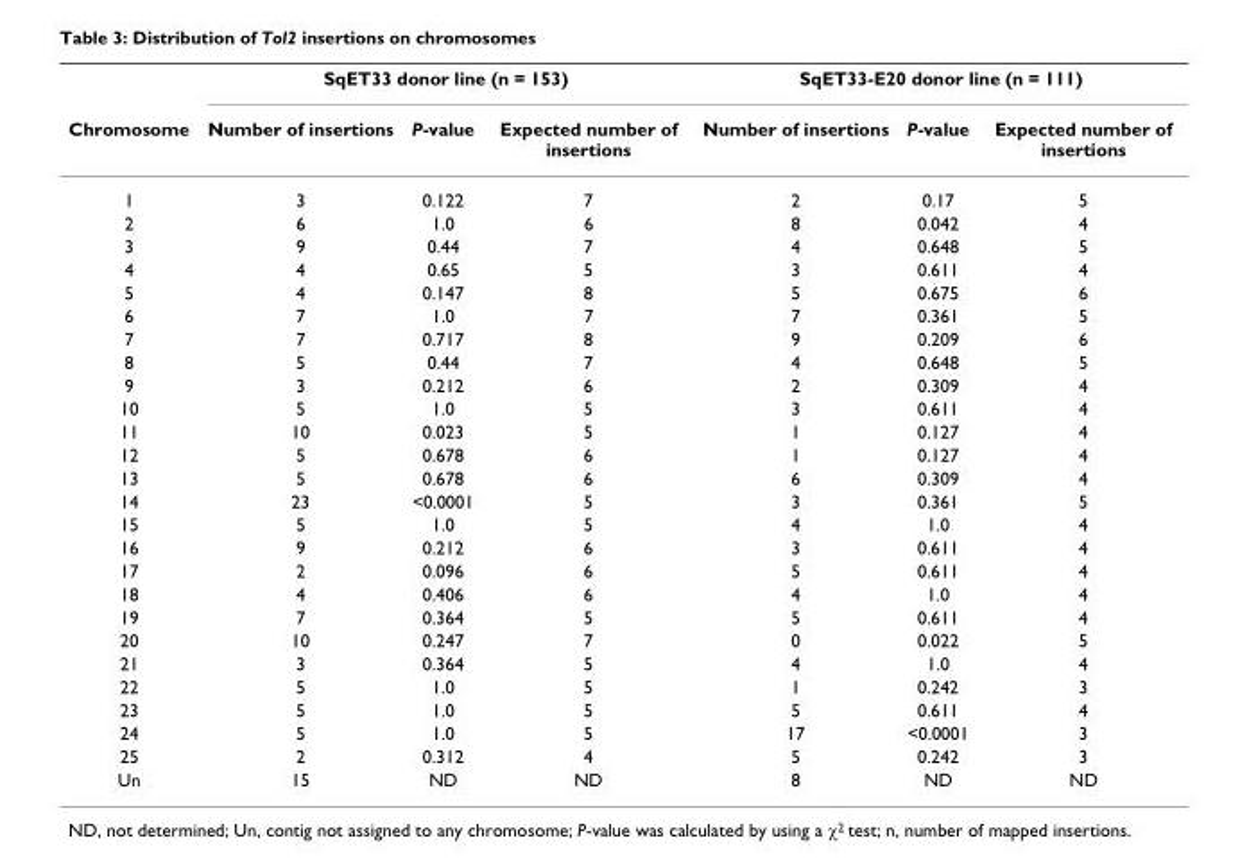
<table><thead><tr><td rowspan="2">Chromosome</td><td colspan="3">SqET33 donor line (n = 153)</td><td colspan="3">SqET33-E20 donor line (n = 111)</td></tr><tr><td>Number of insertions</td><td>P-value</td><td>Expected number of insertions</td><td>Number of insertions</td><td>P-value</td><td>Expected number of insertions</td></tr></thead><tbody><tr><td>1</td><td>3</td><td>0.122</td><td>7</td><td>2</td><td>0.17</td><td>5</td></tr><tr><td>2</td><td>6</td><td>1.0</td><td>6</td><td>8</td><td>0.042</td><td>4</td></tr><tr><td>3</td><td>9</td><td>0.44</td><td>7</td><td>4</td><td>0.648</td><td>5</td></tr><tr><td>4</td><td>4</td><td>0.65</td><td>5</td><td>3</td><td>0.611</td><td>4</td></tr><tr><td>5</td><td>4</td><td>0.147</td><td>8</td><td>5</td><td>0.675</td><td>6</td></tr><tr><td>6</td><td>7</td><td>1.0</td><td>7</td><td>7</td><td>0.361</td><td>5</td></tr><tr><td>7</td><td>7</td><td>0.717</td><td>8</td><td>9</td><td>0.209</td><td>6</td></tr><tr><td>8</td><td>5</td><td>0.44</td><td>7</td><td>4</td><td>0.648</td><td>5</td></tr><tr><td>9</td><td>3</td><td>0.212</td><td>6</td><td>2</td><td>0.309</td><td>4</td></tr><tr><td>10</td><td>5</td><td>1.0</td><td>5</td><td>3</td><td>0.611</td><td>4</td></tr><tr><td>11</td><td>10</td><td>0.023</td><td>5</td><td>1</td><td>0.127</td><td>4</td></tr><tr><td>12</td><td>5</td><td>0.678</td><td>6</td><td>1</td><td>0.127</td><td>4</td></tr><tr><td>13</td><td>5</td><td>0.678</td><td>6</td><td>6</td><td>0.309</td><td>4</td></tr><tr><td>14</td><td>23</td><td>&lt;0.0001</td><td>5</td><td>3</td><td>0.361</td><td>5</td></tr><tr><td>15</td><td>5</td><td>1.0</td><td>5</td><td>4</td><td>1.0</td><td>4</td></tr><tr><td>16</td><td>9</td><td>0.212</td><td>6</td><td>3</td><td>0.611</td><td>4</td></tr><tr><td>17</td><td>2</td><td>0.096</td><td>6</td><td>5</td><td>0.611</td><td>4</td></tr><tr><td>18</td><td>4</td><td>0.406</td><td>6</td><td>4</td><td>1.0</td><td>4</td></tr><tr><td>19</td><td>7</td><td>0.364</td><td>5</td><td>5</td><td>0.611</td><td>4</td></tr><tr><td>20</td><td>10</td><td>0.247</td><td>7</td><td>0</td><td>0.022</td><td>5</td></tr><tr><td>21</td><td>3</td><td>0.364</td><td>5</td><td>4</td><td>1.0</td><td>4</td></tr><tr><td>22</td><td>5</td><td>1.0</td><td>5</td><td>1</td><td>0.242</td><td>3</td></tr><tr><td>23</td><td>5</td><td>1.0</td><td>5</td><td>5</td><td>0.611</td><td>4</td></tr><tr><td>24</td><td>5</td><td>1.0</td><td>5</td><td>17</td><td>&lt;0.0001</td><td>3</td></tr><tr><td>25</td><td>2</td><td>0.312</td><td>4</td><td>5</td><td>0.242</td><td>3</td></tr><tr><td>Un</td><td>15</td><td>ND</td><td>ND</td><td>8</td><td>ND</td><td>ND</td></tr></tbody></table>